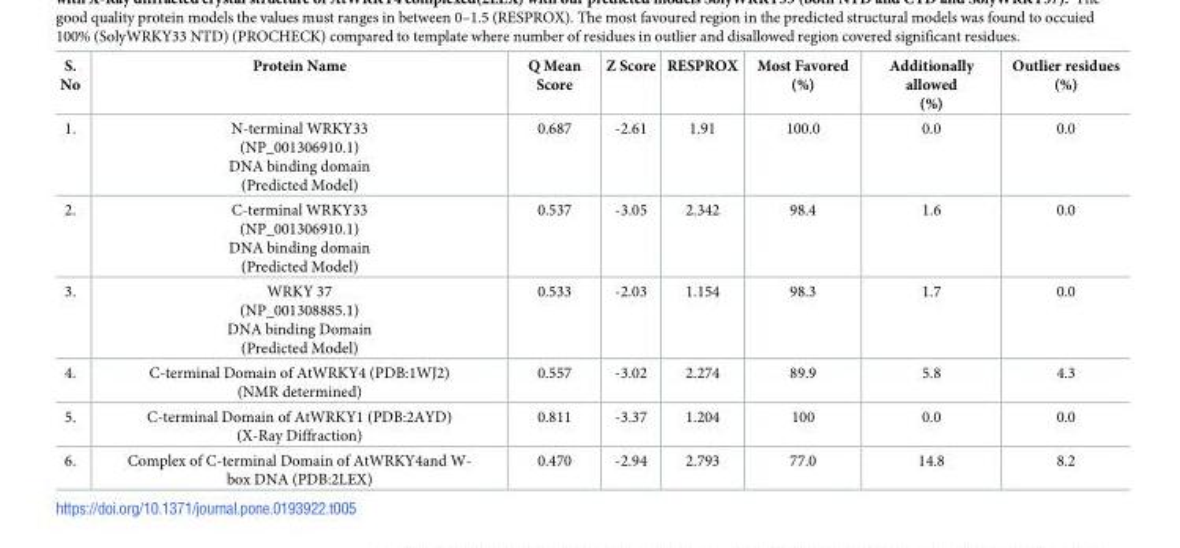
<table><thead><tr><td>S. No</td><td>Protein Name</td><td>Q Mean Score</td><td>Z Score</td><td>RESPROX</td><td>Most Favored (%)</td><td>Additionally allowed (%)</td><td>Outlier residues (%)</td></tr></thead><tbody><tr><td>1.</td><td>N-terminal WRKY33 (NP_001306910.1) DNA binding domain (Predicted Model)</td><td>0.687</td><td>-2.61</td><td>1.91</td><td>100.0</td><td>0.0</td><td>0.0</td></tr><tr><td>2.</td><td>C-terminal WRKY33 (NP_001306910.1) DNA binding domain (Predicted Model)</td><td>0.537</td><td>-3.05</td><td>2.342</td><td>98.4</td><td>1.6</td><td>0.0</td></tr><tr><td>3.</td><td>WRKY 37 (NP_001308885.1) DNA binding Domain (Predicted Model)</td><td>0.533</td><td>-2.03</td><td>1.154</td><td>98.3</td><td>1.7</td><td>0.0</td></tr><tr><td>4.</td><td>C-terminal Domain of AtWRKY4 (PDB:1WJ2) (NMR determined)</td><td>0.557</td><td>-3.02</td><td>2.274</td><td>89.9</td><td>5.8</td><td>4.3</td></tr><tr><td>5.</td><td>C-terminal Domain of AtWRKY1 (PDB:2AYD) (X-Ray Diffraction)</td><td>0.811</td><td>-3.37</td><td>1.204</td><td>100</td><td>0.0</td><td>0.0</td></tr><tr><td>6.</td><td>Complex of C-terminal Domain of AtWRKY4and W- box DNA (PDB:2LEX)</td><td>0.470</td><td>-2.94</td><td>2.793</td><td>77.0</td><td>14.8</td><td>8.2</td></tr></tbody></table>